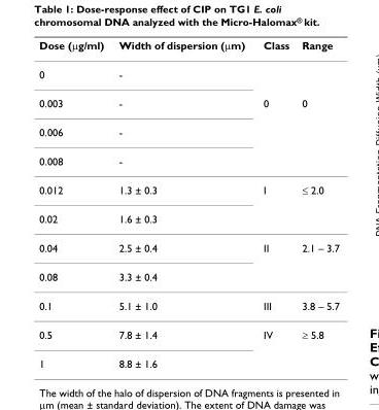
<table><thead><tr><td>Dose (μg/ml)</td><td>Width of dispersion (μm)</td><td>Class</td><td>Range</td></tr></thead><tbody><tr><td>0</td><td>-</td><td></td><td></td></tr><tr><td>0.003</td><td>-</td><td>0</td><td>0</td></tr><tr><td>0.006</td><td>-</td><td></td><td></td></tr><tr><td>0.008</td><td>-</td><td></td><td></td></tr><tr><td>0.012</td><td>1.3 ± 0.3</td><td>I</td><td>≤ 2.0</td></tr><tr><td>0.02</td><td>1.6 ± 0.3</td><td></td><td></td></tr><tr><td>0.04</td><td>2.5 ± 0.4</td><td>II</td><td>2.1 – 3.7</td></tr><tr><td>0.08</td><td>3.3 ± 0.4</td><td></td><td></td></tr><tr><td>0.1</td><td>5.1 ± 1.0</td><td>III</td><td>3.8 – 5.7</td></tr><tr><td>0.5</td><td>7.8 ± 1.4</td><td>IV</td><td>≥ 5.8</td></tr><tr><td>1</td><td>8.8 ± 1.6</td><td></td><td></td></tr></tbody></table>